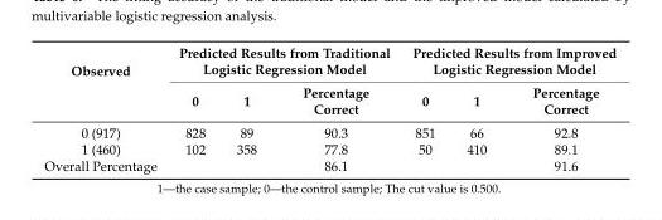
<table><thead><tr><td rowspan="2">Observed</td><td colspan="3">Predicted Results from Traditional Logistic Regression Model</td><td colspan="3">Predicted Results from Improved Logistic Regression Model</td></tr><tr><td>0</td><td>1</td><td>Percentage Correct</td><td>0</td><td>1</td><td>Percentage Correct</td></tr></thead><tbody><tr><td>0 (917)</td><td>828</td><td>89</td><td>90.3</td><td>851</td><td>66</td><td>92.8</td></tr><tr><td>1 (460)</td><td>102</td><td>358</td><td>77.8</td><td>50</td><td>410</td><td>89.1</td></tr><tr><td>Overall Percentage</td><td></td><td></td><td>86.1</td><td></td><td></td><td>91.6</td></tr></tbody></table>